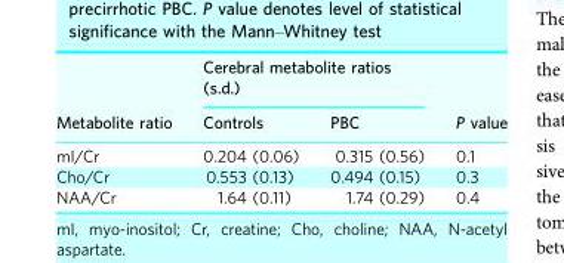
<table><thead><tr><td rowspan="2">Metabolite ratio</td><td colspan="2">Cerebral metabolite ratios (s.d.)</td><td rowspan="2">P value</td></tr><tr><td>Controls</td><td>PBC</td></tr></thead><tbody><tr><td>mI/Cr</td><td>0.204 (0.06)</td><td>0.315 (0.56)</td><td>0.1</td></tr><tr><td>Cho/Cr</td><td>0.553 (0.13)</td><td>0.494 (0.15)</td><td>0.3</td></tr><tr><td>NAA/Cr</td><td>1.64 (0.11)</td><td>1.74 (0.29)</td><td>0.4</td></tr></tbody></table>